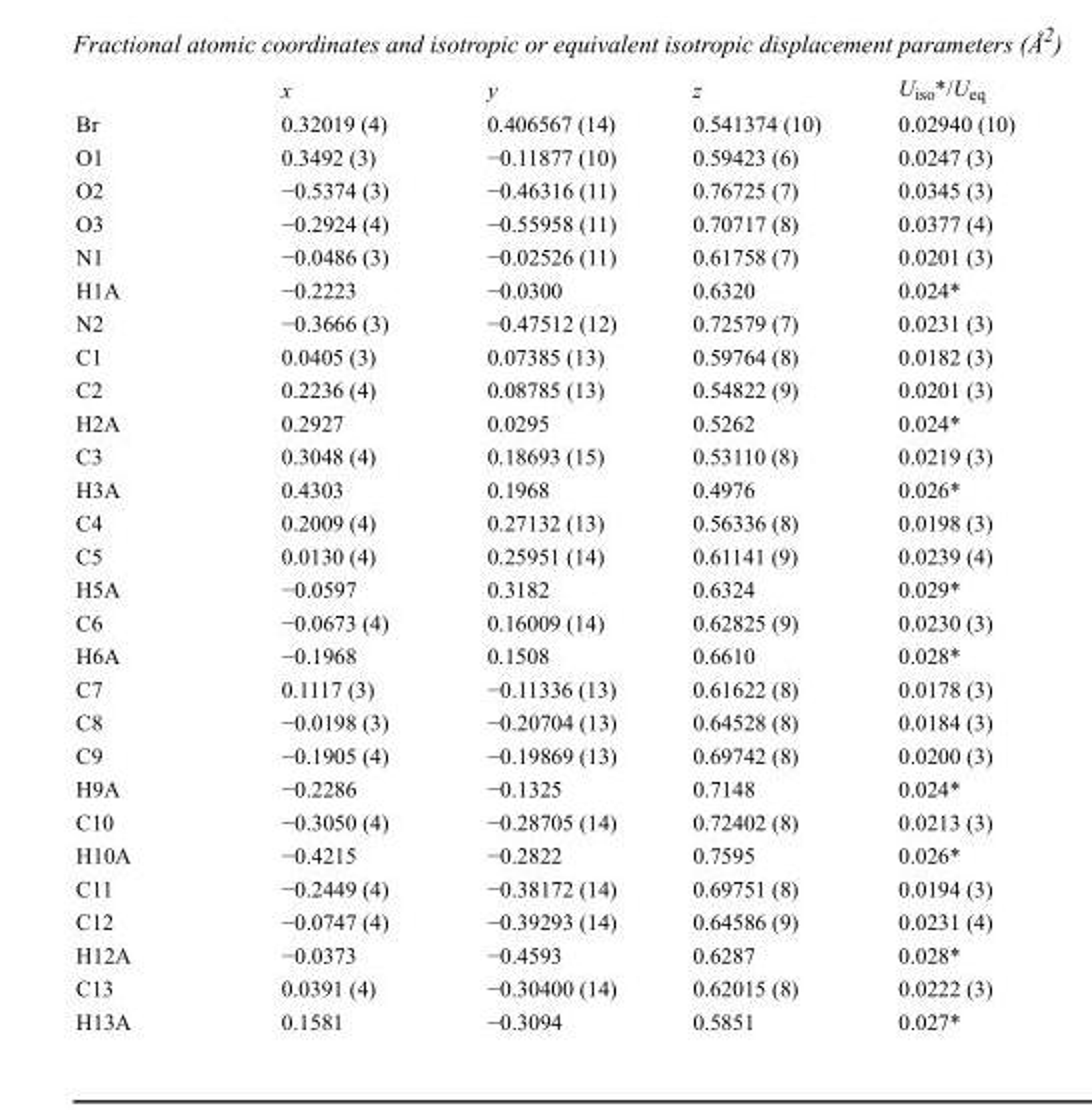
<table><thead><tr><td></td><td>x</td><td>y</td><td>z</td><td>U<sub>iso</sub>*/U<sub>eq</sub></td></tr></thead><tbody><tr><td>Br</td><td>0.32019 (4)</td><td>0.406567 (14)</td><td>0.541374 (10)</td><td>0.02940 (10)</td></tr><tr><td>O1</td><td>0.3492 (3)</td><td>−0.11877 (10)</td><td>0.59423 (6)</td><td>0.0247 (3)</td></tr><tr><td>O2</td><td>−0.5374 (3)</td><td>−0.46316 (11)</td><td>0.76725 (7)</td><td>0.0345 (3)</td></tr><tr><td>O3</td><td>−0.2924 (4)</td><td>−0.55958 (11)</td><td>0.70717 (8)</td><td>0.0377 (4)</td></tr><tr><td>N1</td><td>−0.0486 (3)</td><td>−0.02526 (11)</td><td>0.61758 (7)</td><td>0.0201 (3)</td></tr><tr><td>H1A</td><td>−0.2223</td><td>−0.0300</td><td>0.6320</td><td>0.024*</td></tr><tr><td>N2</td><td>−0.3666 (3)</td><td>−0.47512 (12)</td><td>0.72579 (7)</td><td>0.0231 (3)</td></tr><tr><td>C1</td><td>0.0405 (3)</td><td>0.07385 (13)</td><td>0.59764 (8)</td><td>0.0182 (3)</td></tr><tr><td>C2</td><td>0.2236 (4)</td><td>0.08785 (13)</td><td>0.54822 (9)</td><td>0.0201 (3)</td></tr><tr><td>H2A</td><td>0.2927</td><td>0.0295</td><td>0.5262</td><td>0.024*</td></tr><tr><td>C3</td><td>0.3048 (4)</td><td>0.18693 (15)</td><td>0.53110 (8)</td><td>0.0219 (3)</td></tr><tr><td>H3A</td><td>0.4303</td><td>0.1968</td><td>0.4976</td><td>0.026*</td></tr><tr><td>C4</td><td>0.2009 (4)</td><td>0.27132 (13)</td><td>0.56336 (8)</td><td>0.0198 (3)</td></tr><tr><td>C5</td><td>0.0130 (4)</td><td>0.25951 (14)</td><td>0.61141 (9)</td><td>0.0239 (4)</td></tr><tr><td>H5A</td><td>−0.0597</td><td>0.3182</td><td>0.6324</td><td>0.029*</td></tr><tr><td>C6</td><td>−0.0673 (4)</td><td>0.16009 (14)</td><td>0.62825 (9)</td><td>0.0230 (3)</td></tr><tr><td>H6A</td><td>−0.1968</td><td>0.1508</td><td>0.6610</td><td>0.028*</td></tr><tr><td>C7</td><td>0.1117 (3)</td><td>−0.11336 (13)</td><td>0.61622 (8)</td><td>0.0178 (3)</td></tr><tr><td>C8</td><td>−0.0198 (3)</td><td>−0.20704 (13)</td><td>0.64528 (8)</td><td>0.0184 (3)</td></tr><tr><td>C9</td><td>−0.1905 (4)</td><td>−0.19869 (13)</td><td>0.69742 (8)</td><td>0.0200 (3)</td></tr><tr><td>H9A</td><td>−0.2286</td><td>−0.1325</td><td>0.7148</td><td>0.024*</td></tr><tr><td>C10</td><td>−0.3050 (4)</td><td>−0.28705 (14)</td><td>0.72402 (8)</td><td>0.0213 (3)</td></tr><tr><td>H10A</td><td>−0.4215</td><td>−0.2822</td><td>0.7595</td><td>0.026*</td></tr><tr><td>C11</td><td>−0.2449 (4)</td><td>−0.38172 (14)</td><td>0.69751 (8)</td><td>0.0194 (3)</td></tr><tr><td>C12</td><td>−0.0747 (4)</td><td>−0.39293 (14)</td><td>0.64586 (9)</td><td>0.0231 (4)</td></tr><tr><td>H12A</td><td>−0.0373</td><td>−0.4593</td><td>0.6287</td><td>0.028*</td></tr><tr><td>C13</td><td>0.0391 (4)</td><td>−0.30400 (14)</td><td>0.62015 (8)</td><td>0.0222 (3)</td></tr><tr><td>H13A</td><td>0.1581</td><td>−0.3094</td><td>0.5851</td><td>0.027*</td></tr></tbody></table>